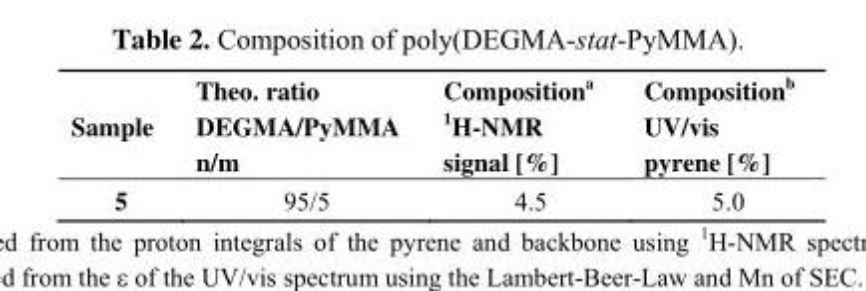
<table><thead><tr><td>Sample</td><td>Theo. ratio DEGMA/PyMMA n/m</td><td>Composition<sup>a 1</sup>H-NMR signal [%]</td><td>Composition<sup>b</sup> UV/vis pyrene [%]</td></tr></thead><tbody><tr><td>5</td><td>95/5</td><td>4.5</td><td>5.0</td></tr></tbody></table>